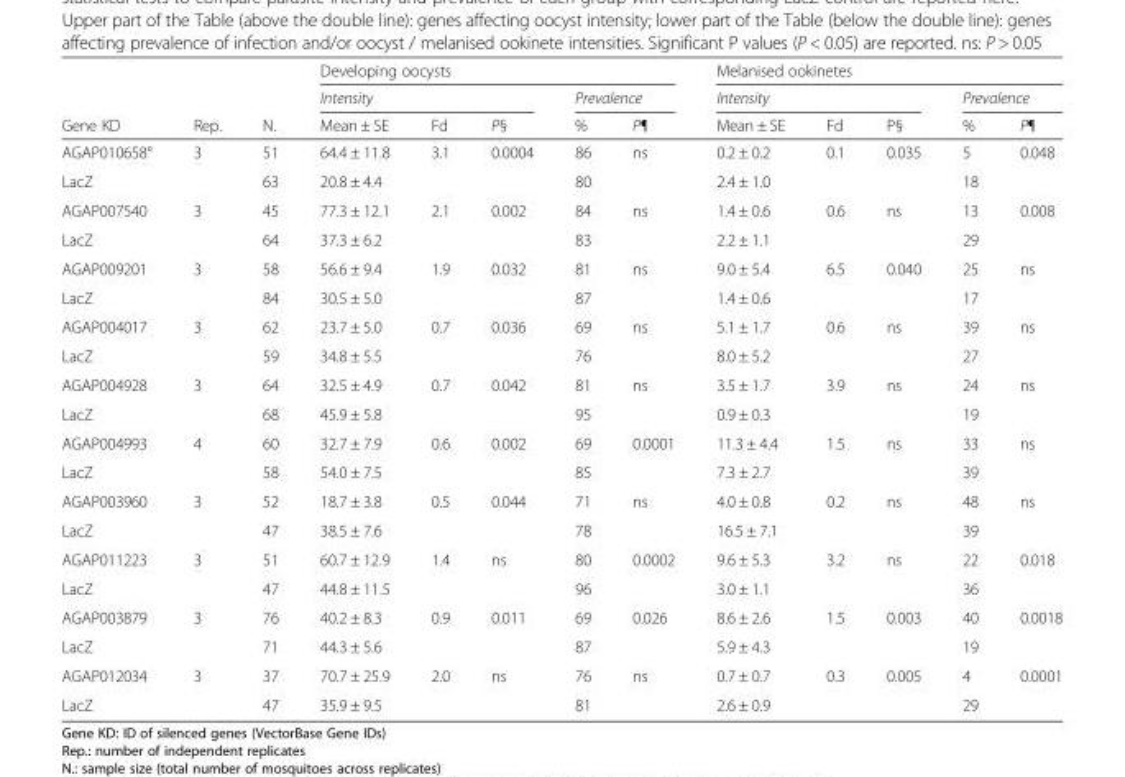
<table><thead><tr><td rowspan="3">Gene KD</td><td rowspan="3">Rep.</td><td rowspan="3">N.</td><td colspan="5">Developing oocysts</td><td colspan="5">Melanised ookinetes</td></tr><tr><td colspan="3">Intensity</td><td colspan="2">Prevalence</td><td colspan="3">Intensity</td><td colspan="2">Prevalence</td></tr><tr><td>Mean ± SE</td><td>Fd</td><td>P§</td><td>%</td><td>P¶</td><td>Mean ± SE</td><td>Fd</td><td>P§</td><td>%</td><td>P¶</td></tr></thead><tbody><tr><td>AGAP010658°</td><td rowspan="2">3</td><td>51</td><td>64.4 ± 11.8</td><td>3.1</td><td>0.0004</td><td>86</td><td>ns</td><td>0.2 ± 0.2</td><td>0.1</td><td>0.035</td><td>5</td><td>0.048</td></tr><tr><td>LacZ</td><td>63</td><td>20.8 ± 4.4</td><td></td><td></td><td>80</td><td></td><td>2.4 ± 1.0</td><td></td><td></td><td>18</td><td></td></tr><tr><td>AGAP007540</td><td rowspan="2">3</td><td>45</td><td>77.3 ± 12.1</td><td>2.1</td><td>0.002</td><td>84</td><td>ns</td><td>1.4 ± 0.6</td><td>0.6</td><td>ns</td><td>13</td><td>0.008</td></tr><tr><td>LacZ</td><td>64</td><td>37.3 ± 6.2</td><td></td><td></td><td>83</td><td></td><td>2.2 ± 1.1</td><td></td><td></td><td>29</td><td></td></tr><tr><td>AGAP009201</td><td rowspan="2">3</td><td>58</td><td>56.6 ± 9.4</td><td>1.9</td><td>0.032</td><td>81</td><td>ns</td><td>9.0 ± 5.4</td><td>6.5</td><td>0.040</td><td>25</td><td>ns</td></tr><tr><td>LacZ</td><td>84</td><td>30.5 ± 5.0</td><td></td><td></td><td>87</td><td></td><td>1.4 ± 0.6</td><td></td><td></td><td>17</td><td></td></tr><tr><td>AGAP004017</td><td rowspan="2">3</td><td>62</td><td>23.7 ± 5.0</td><td>0.7</td><td>0.036</td><td>69</td><td>ns</td><td>5.1 ± 1.7</td><td>0.6</td><td>ns</td><td>39</td><td>ns</td></tr><tr><td>LacZ</td><td>59</td><td>34.8 ± 5.5</td><td></td><td></td><td>76</td><td></td><td>8.0 ± 5.2</td><td></td><td></td><td>27</td><td></td></tr><tr><td>AGAP004928</td><td rowspan="2">3</td><td>64</td><td>32.5 ± 4.9</td><td>0.7</td><td>0.042</td><td>81</td><td>ns</td><td>3.5 ± 1.7</td><td>3.9</td><td>ns</td><td>24</td><td>ns</td></tr><tr><td>LacZ</td><td>68</td><td>45.9 ± 5.8</td><td></td><td></td><td>95</td><td></td><td>0.9 ± 0.3</td><td></td><td></td><td>19</td><td></td></tr><tr><td>AGAP004993</td><td rowspan="2">4</td><td>60</td><td>32.7 ± 7.9</td><td>0.6</td><td>0.002</td><td>69</td><td>0.0001</td><td>11.3 ± 4.4</td><td>1.5</td><td>ns</td><td>33</td><td>ns</td></tr><tr><td>LacZ</td><td>58</td><td>54.0 ± 7.5</td><td></td><td></td><td>85</td><td></td><td>7.3 ± 2.7</td><td></td><td></td><td>39</td><td></td></tr><tr><td>AGAP003960</td><td rowspan="2">3</td><td>52</td><td>18.7 ± 3.8</td><td>0.5</td><td>0.044</td><td>71</td><td>ns</td><td>4.0 ± 0.8</td><td>0.2</td><td>ns</td><td>48</td><td>ns</td></tr><tr><td>LacZ</td><td>47</td><td>38.5 ± 7.6</td><td></td><td></td><td>78</td><td></td><td>16.5 ± 7.1</td><td></td><td></td><td>39</td><td></td></tr><tr><td>AGAP011223</td><td rowspan="2">3</td><td>51</td><td>60.7 ± 12.9</td><td>1.4</td><td>ns</td><td>80</td><td>0.0002</td><td>9.6 ± 5.3</td><td>3.2</td><td>ns</td><td>22</td><td>0.018</td></tr><tr><td>LacZ</td><td>47</td><td>44.8 ± 11.5</td><td></td><td></td><td>96</td><td></td><td>3.0 ± 1.1</td><td></td><td></td><td>36</td><td></td></tr><tr><td>AGAP003879</td><td rowspan="2">3</td><td>76</td><td>40.2 ± 8.3</td><td>0.9</td><td>0.011</td><td>69</td><td>0.026</td><td>8.6 ± 2.6</td><td>1.5</td><td>0.003</td><td>40</td><td>0.0018</td></tr><tr><td>LacZ</td><td>71</td><td>44.3 ± 5.6</td><td></td><td></td><td>87</td><td></td><td>5.9 ± 4.3</td><td></td><td></td><td>19</td><td></td></tr><tr><td>AGAP012034</td><td rowspan="2">3</td><td>37</td><td>70.7 ± 25.9</td><td>2.0</td><td>ns</td><td>76</td><td>ns</td><td>0.7 ± 0.7</td><td>0.3</td><td>0.005</td><td>4</td><td>0.0001</td></tr><tr><td>LacZ</td><td>47</td><td>35.9 ± 9.5</td><td></td><td></td><td>81</td><td></td><td>2.6 ± 0.9</td><td></td><td></td><td>29</td><td></td></tr></tbody></table>